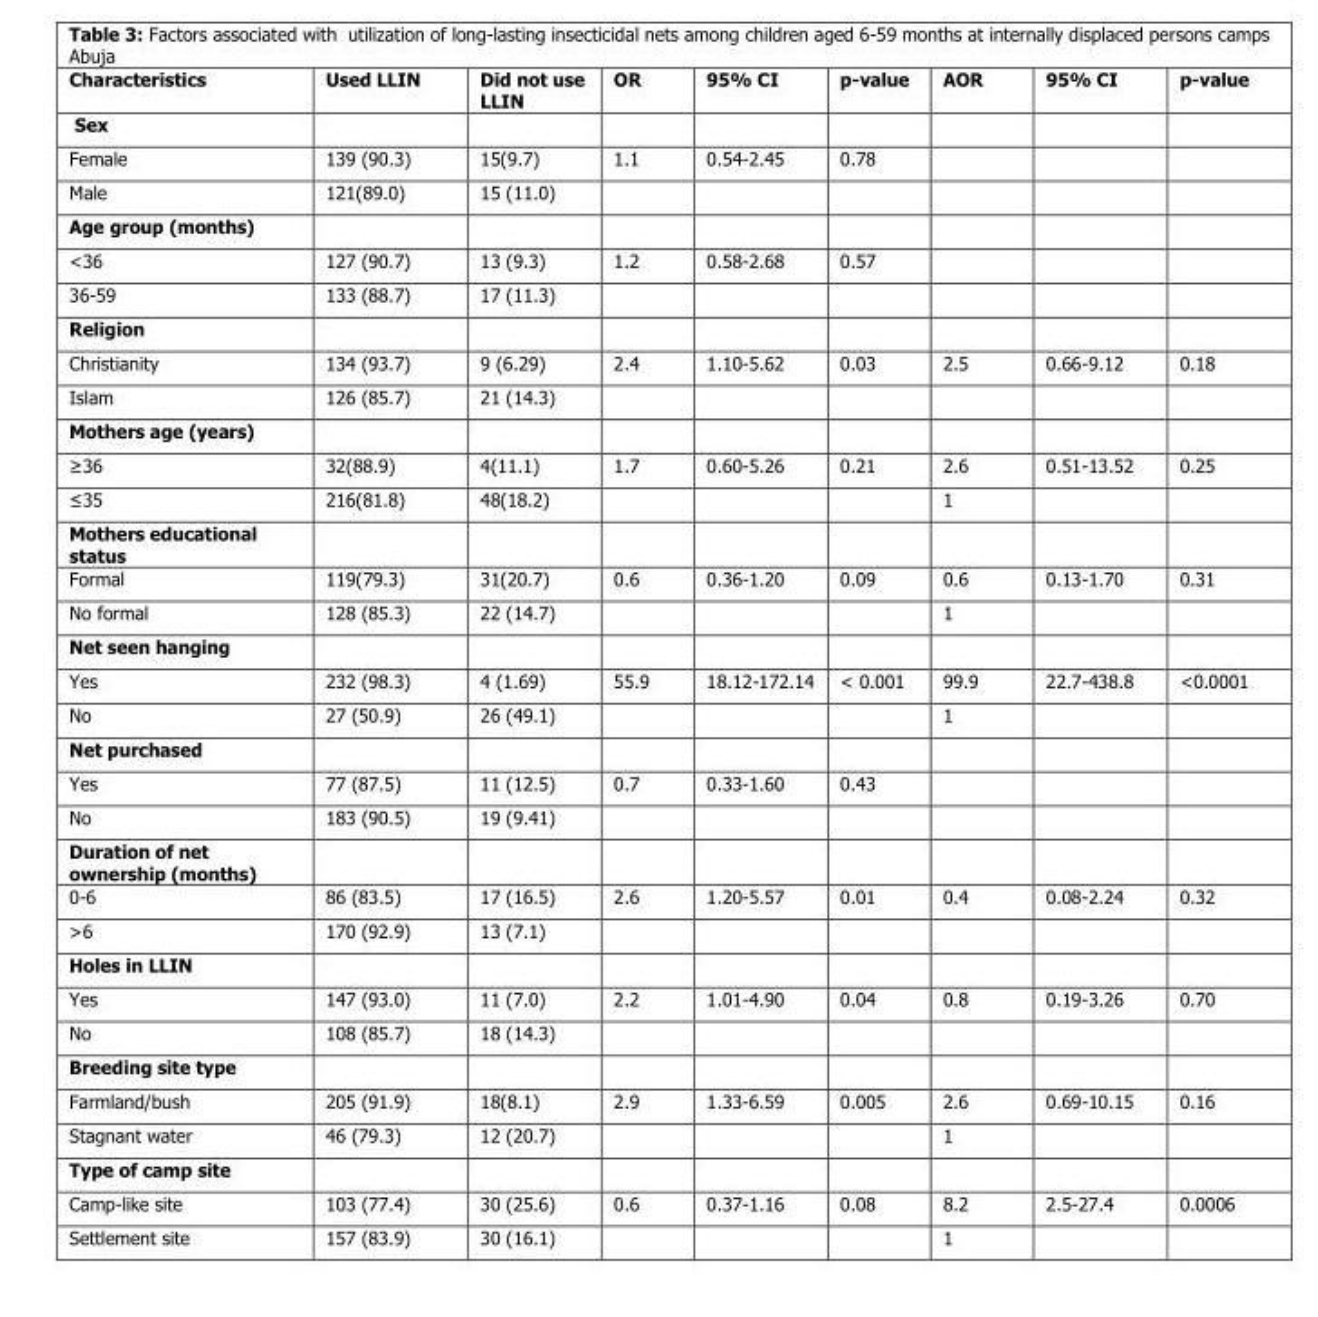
<table><thead><tr><td>Characteristics</td><td>Used LLIN</td><td>Did not use LLIN</td><td>OR</td><td>95% CI</td><td>p-value</td><td>AOR</td><td>95% CI</td><td>p-value</td></tr></thead><tbody><tr><td colspan="9">Sex</td></tr><tr><td>Female</td><td>139 (90.3)</td><td>15(9.7)</td><td>1.1</td><td>0.54-2.45</td><td>0.78</td><td></td><td></td><td></td></tr><tr><td>Male</td><td>121(89.0)</td><td>15 (11.0)</td><td></td><td></td><td></td><td></td><td></td><td></td></tr><tr><td colspan="9">Age group (months)</td></tr><tr><td>&lt;36</td><td>127 (90.7)</td><td>13 (9.3)</td><td>1.2</td><td>0.58-2.68</td><td>0.57</td><td></td><td></td><td></td></tr><tr><td>36-59</td><td>133 (88.7)</td><td>17 (11.3)</td><td></td><td></td><td></td><td></td><td></td><td></td></tr><tr><td colspan="9">Religion</td></tr><tr><td>Christianity</td><td>134 (93.7)</td><td>9 (6.29)</td><td>2.4</td><td>1.10-5.62</td><td>0.03</td><td>2.5</td><td>0.66-9.12</td><td>0.18</td></tr><tr><td>Islam</td><td>126 (85.7)</td><td>21 (14.3)</td><td></td><td></td><td></td><td></td><td></td><td></td></tr><tr><td colspan="9">Mothers age (years)</td></tr><tr><td>≥36</td><td>32(88.9)</td><td>4(11.1)</td><td>1.7</td><td>0.60-5.26</td><td>0.21</td><td>2.6</td><td>0.51-13.52</td><td>0.25</td></tr><tr><td>≤35</td><td>216(81.8)</td><td>48(18.2)</td><td></td><td></td><td></td><td>1</td><td></td><td></td></tr><tr><td colspan="9">Mothers educational status</td></tr><tr><td>Formal</td><td>119(79.3)</td><td>31(20.7)</td><td>0.6</td><td>0.36-1.20</td><td>0.09</td><td>0.6</td><td>0.13-1.70</td><td>0.31</td></tr><tr><td>No formal</td><td>128 (85.3)</td><td>22 (14.7)</td><td></td><td></td><td></td><td>1</td><td></td><td></td></tr><tr><td colspan="9">Net seen hanging</td></tr><tr><td>Yes</td><td>232 (98.3)</td><td>4 (1.69)</td><td>55.9</td><td>18.12-172.14</td><td>&lt; 0.001</td><td>99.9</td><td>22.7-438.8</td><td>&lt;0.0001</td></tr><tr><td>No</td><td>27 (50.9)</td><td>26 (49.1)</td><td></td><td></td><td></td><td>1</td><td></td><td></td></tr><tr><td colspan="9">Net purchased</td></tr><tr><td>Yes</td><td>77 (87.5)</td><td>11 (12.5)</td><td>0.7</td><td>0.33-1.60</td><td>0.43</td><td></td><td></td><td></td></tr><tr><td>No</td><td>183 (90.5)</td><td>19 (9.41)</td><td></td><td></td><td></td><td></td><td></td><td></td></tr><tr><td colspan="9">Duration of net ownership (months)</td></tr><tr><td>0-6</td><td>86 (83.5)</td><td>17 (16.5)</td><td>2.6</td><td>1.20-5.57</td><td>0.01</td><td>0.4</td><td>0.08-2.24</td><td>0.32</td></tr><tr><td>&gt;6</td><td>170 (92.9)</td><td>13 (7.1)</td><td></td><td></td><td></td><td></td><td></td><td></td></tr><tr><td colspan="9">Holes in LLIN</td></tr><tr><td>Yes</td><td>147 (93.0)</td><td>11 (7.0)</td><td>2.2</td><td>1.01-4.90</td><td>0.04</td><td>0.8</td><td>0.19-3.26</td><td>0.70</td></tr><tr><td>No</td><td>108 (85.7)</td><td>18 (14.3)</td><td></td><td></td><td></td><td></td><td></td><td></td></tr><tr><td colspan="9">Breeding site type</td></tr><tr><td>Farmland/bush</td><td>205 (91.9)</td><td>18(8.1)</td><td>2.9</td><td>1.33-6.59</td><td>0.005</td><td>2.6</td><td>0.69-10.15</td><td>0.16</td></tr><tr><td>Stagnant water</td><td>46 (79.3)</td><td>12 (20.7)</td><td></td><td></td><td></td><td>1</td><td></td><td></td></tr><tr><td colspan="9">Type of camp site</td></tr><tr><td>Camp-like site</td><td>103 (77.4)</td><td>30 (25.6)</td><td>0.6</td><td>0.37-1.16</td><td>0.08</td><td>8.2</td><td>2.5-27.4</td><td>0.0006</td></tr><tr><td>Settlement site</td><td>157 (83.9)</td><td>30 (16.1)</td><td></td><td></td><td></td><td>1</td><td></td><td></td></tr></tbody></table>